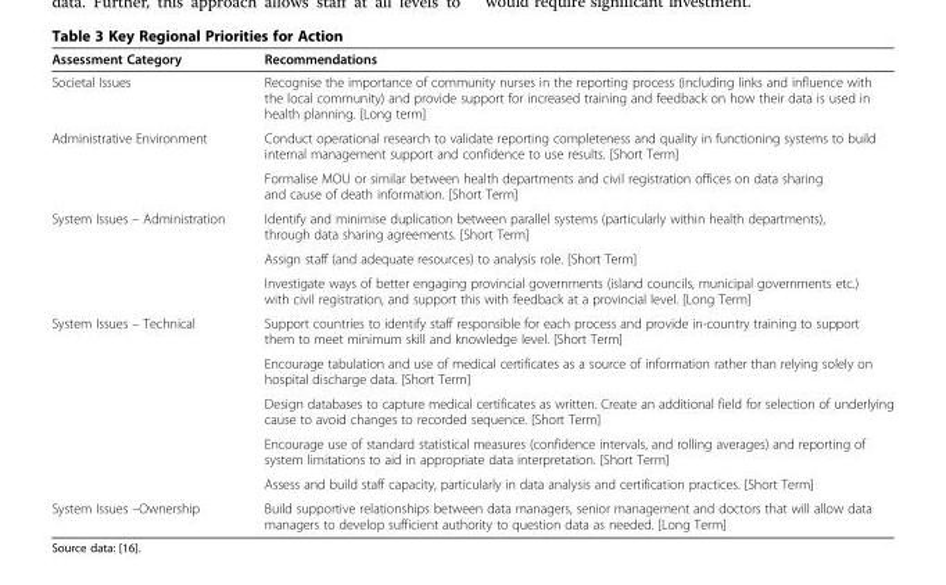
<table><thead><tr><td>Assessment Category</td><td>Recommendations</td></tr></thead><tbody><tr><td>Societal Issues</td><td>Recognise the importance of community nurses in the reporting process (including links and influence with the local community) and provide support for increased training and feedback on how their data is used in health planning. [Long term]</td></tr><tr><td rowspan="2">Administrative Environment</td><td>Conduct operational research to validate reporting completeness and quality in functioning systems to build internal management support and confidence to use results. [Short Term]</td></tr><tr><td>Formalise MOU or similar between health departments and civil registration offices on data sharing and cause of death information. [Short Term]</td></tr><tr><td rowspan="3">System Issues – Administration</td><td>Identify and minimise duplication between parallel systems (particularly within health departments), through data sharing agreements. [Short Term]</td></tr><tr><td>Assign staff (and adequate resources) to analysis role. [Short Term]</td></tr><tr><td>Investigate ways of better engaging provincial governments (island councils, municipal governments etc.) with civil registration, and support this with feedback at a provincial level. [Long Term]</td></tr><tr><td rowspan="5">System Issues – Technical</td><td>Support countries to identify staff responsible for each process and provide in-country training to support them to meet minimum skill and knowledge level. [Short Term]</td></tr><tr><td>Encourage tabulation and use of medical certificates as a source of information rather than relying solely on hospital discharge data. [Short Term]</td></tr><tr><td>Design databases to capture medical certificates as written. Create an additional field for selection of underlying cause to avoid changes to recorded sequence. [Short Term]</td></tr><tr><td>Encourage use of standard statistical measures (confidence intervals, and rolling averages) and reporting of system limitations to aid in appropriate data interpretation. [Short Term]</td></tr><tr><td>Assess and build staff capacity, particularly in data analysis and certification practices. [Short Term]</td></tr><tr><td>System Issues –Ownership</td><td>Build supportive relationships between data managers, senior management and doctors that will allow data managers to develop sufficient authority to question data as needed. [Long Term]</td></tr></tbody></table>